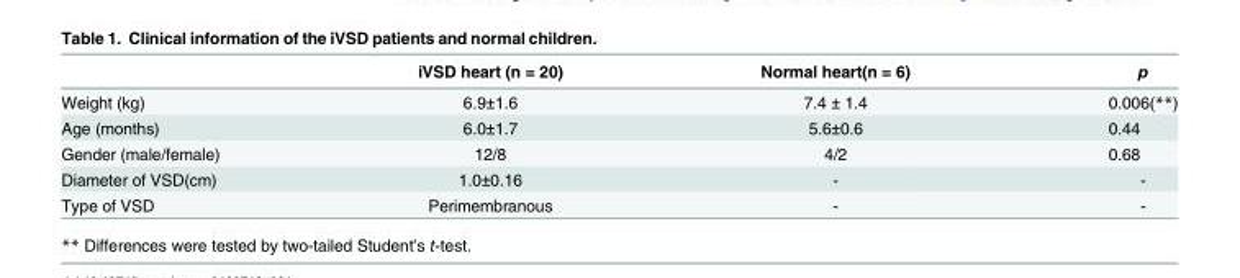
<table><thead><tr><td></td><td>iVSD heart (n = 20)</td><td>Normal heart(n = 6)</td><td>p</td></tr></thead><tbody><tr><td>Weight (kg)</td><td>6.9±1.6</td><td>7.4 ± 1.4</td><td>0.006(**)</td></tr><tr><td>Age (months)</td><td>6.0±1.7</td><td>5.6±0.6</td><td>0.44</td></tr><tr><td>Gender (male/female)</td><td>12/8</td><td>4/2</td><td>0.68</td></tr><tr><td>Diameter of VSD(cm)</td><td>1.0±0.16</td><td>-</td><td>-</td></tr><tr><td>Type of VSD</td><td>Perimembranous</td><td>-</td><td>-</td></tr></tbody></table>